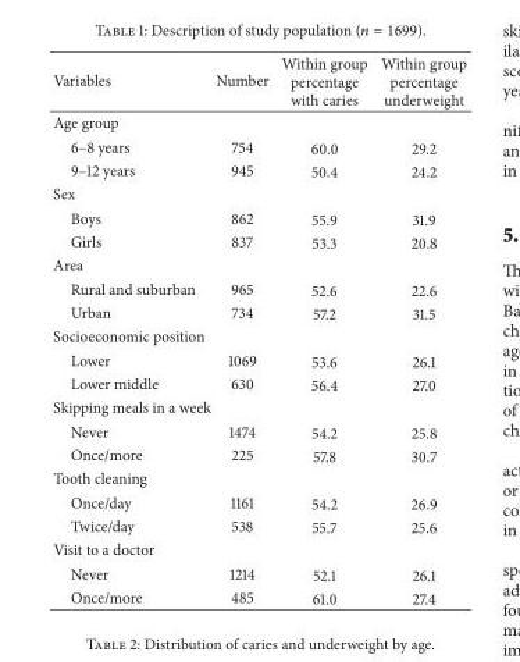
<table><thead><tr><td>Variables</td><td>Number</td><td>Within group percentage with caries</td><td>Within group percentage underweight</td></tr></thead><tbody><tr><td colspan="4">Age group</td></tr><tr><td>6–8 years</td><td>754</td><td>60.0</td><td>29.2</td></tr><tr><td>9–12 years</td><td>945</td><td>50.4</td><td>24.2</td></tr><tr><td colspan="4">Sex</td></tr><tr><td>Boys</td><td>862</td><td>55.9</td><td>31.9</td></tr><tr><td>Girls</td><td>837</td><td>53.3</td><td>20.8</td></tr><tr><td colspan="4">Area</td></tr><tr><td>Rural and suburban</td><td>965</td><td>52.6</td><td>22.6</td></tr><tr><td>Urban</td><td>734</td><td>57.2</td><td>31.5</td></tr><tr><td colspan="4">Socioeconomic position</td></tr><tr><td>Lower</td><td>1069</td><td>53.6</td><td>26.1</td></tr><tr><td>Lower middle</td><td>630</td><td>56.4</td><td>27.0</td></tr><tr><td colspan="4">Skipping meals in a week</td></tr><tr><td>Never</td><td>1474</td><td>54.2</td><td>25.8</td></tr><tr><td>Once/more</td><td>225</td><td>57.8</td><td>30.7</td></tr><tr><td colspan="4">Tooth cleaning</td></tr><tr><td>Once/day</td><td>1161</td><td>54.2</td><td>26.9</td></tr><tr><td>Twice/day</td><td>538</td><td>55.7</td><td>25.6</td></tr><tr><td colspan="4">Visit to a doctor</td></tr><tr><td>Never</td><td>1214</td><td>52.1</td><td>26.1</td></tr><tr><td>Once/more</td><td>485</td><td>61.0</td><td>27.4</td></tr></tbody></table>